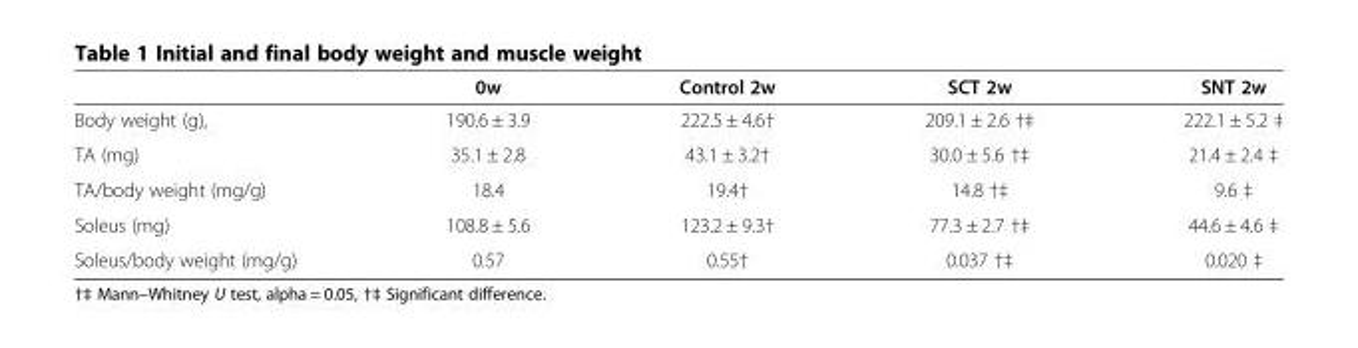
<table><thead><tr><td></td><td>0w</td><td>Control 2w</td><td>SCT 2w</td><td>SNT 2w</td></tr></thead><tbody><tr><td>Body weight (g),</td><td>190.6 ± 3.9</td><td>222.5 ± 4.6†</td><td>209.1 ± 2.6 †‡</td><td>222.1 ± 5.2 ‡</td></tr><tr><td>TA (mg)</td><td>35.1 ± 2.8</td><td>43.1 ± 3.2†</td><td>30.0 ± 5.6 †‡</td><td>21.4 ± 2.4 ‡</td></tr><tr><td>TA/body weight (mg/g)</td><td>18.4</td><td>19.4†</td><td>14.8 †‡</td><td>9.6 ‡</td></tr><tr><td>Soleus (mg)</td><td>108.8 ± 5.6</td><td>123.2 ± 9.3†</td><td>77.3 ± 2.7 †‡</td><td>44.6 ± 4.6 ‡</td></tr><tr><td>Soleus/body weight (mg/g)</td><td>0.57</td><td>0.55†</td><td>0.037 †‡</td><td>0.020 ‡</td></tr></tbody></table>